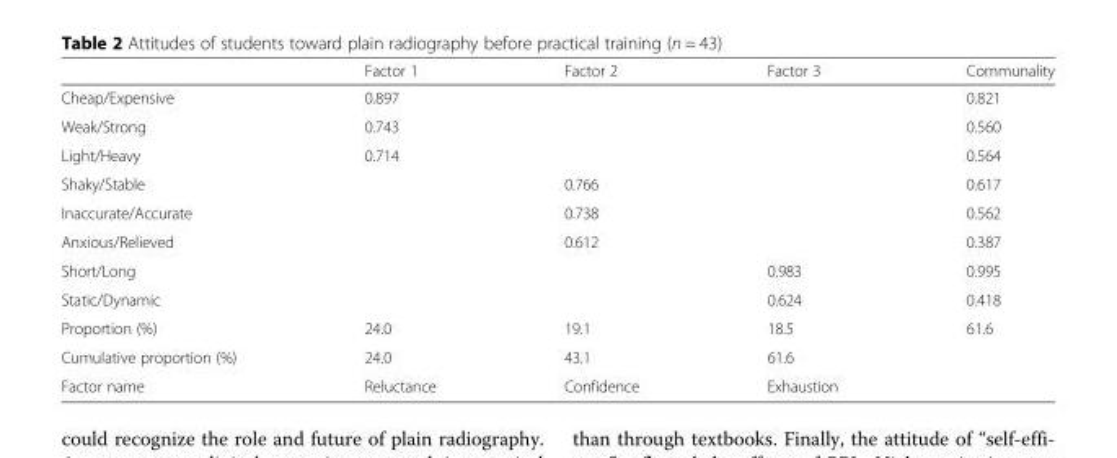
<table><thead><tr><td></td><td>Factor 1</td><td>Factor 2</td><td>Factor 3</td><td>Communality</td></tr></thead><tbody><tr><td>Cheap/Expensive</td><td>0.897</td><td></td><td></td><td>0.821</td></tr><tr><td>Weak/Strong</td><td>0.743</td><td></td><td></td><td>0.560</td></tr><tr><td>Light/Heavy</td><td>0.714</td><td></td><td></td><td>0.564</td></tr><tr><td>Shaky/Stable</td><td></td><td>0.766</td><td></td><td>0.617</td></tr><tr><td>Inaccurate/Accurate</td><td></td><td>0.738</td><td></td><td>0.562</td></tr><tr><td>Anxious/Relieved</td><td></td><td>0.612</td><td></td><td>0.387</td></tr><tr><td>Short/Long</td><td></td><td></td><td>0.983</td><td>0.995</td></tr><tr><td>Static/Dynamic</td><td></td><td></td><td>0.624</td><td>0.418</td></tr><tr><td>Proportion (%)</td><td>24.0</td><td>19.1</td><td>18.5</td><td>61.6</td></tr><tr><td>Cumulative proportion (%)</td><td>24.0</td><td>43.1</td><td>61.6</td><td></td></tr><tr><td>Factor name</td><td>Reluctance</td><td>Confidence</td><td>Exhaustion</td><td></td></tr></tbody></table>